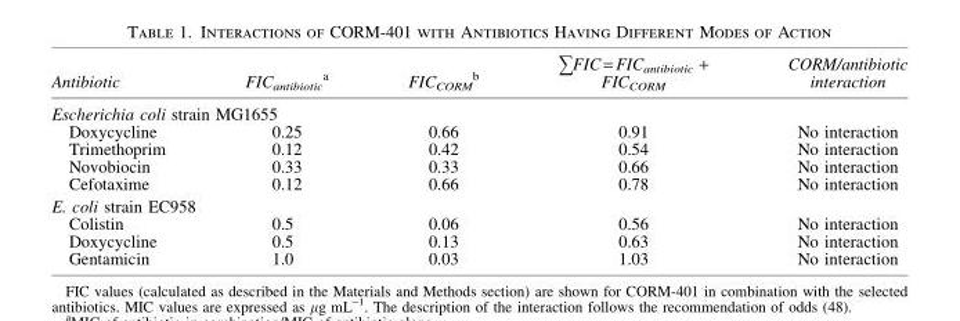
<table><thead><tr><td>Antibiotic</td><td>FIC<sub>antibiotic</sub> <sup>a</sup></td><td>FIC<sub>CORM</sub> <sup>b</sup></td><td>+FIC = FICantibiotic + FICCORM</td><td>CORM/antibiotic interaction</td></tr></thead><tbody><tr><td colspan="5">Escherichia coli strain MG1655</td></tr><tr><td>Doxycycline</td><td>0.25</td><td>0.66</td><td>0.91</td><td>No interaction</td></tr><tr><td>Trimethoprim</td><td>0.12</td><td>0.42</td><td>0.54</td><td>No interaction</td></tr><tr><td>Novobiocin</td><td>0.33</td><td>0.33</td><td>0.66</td><td>No interaction</td></tr><tr><td>Cefotaxime</td><td>0.12</td><td>0.66</td><td>0.78</td><td>No interaction</td></tr><tr><td colspan="5">E. coli strain EC958</td></tr><tr><td>Colistin</td><td>0.5</td><td>0.06</td><td>0.56</td><td>No interaction</td></tr><tr><td>Doxycycline</td><td>0.5</td><td>0.13</td><td>0.63</td><td>No interaction</td></tr><tr><td>Gentamicin</td><td>1.0</td><td>0.03</td><td>1.03</td><td>No interaction</td></tr></tbody></table>